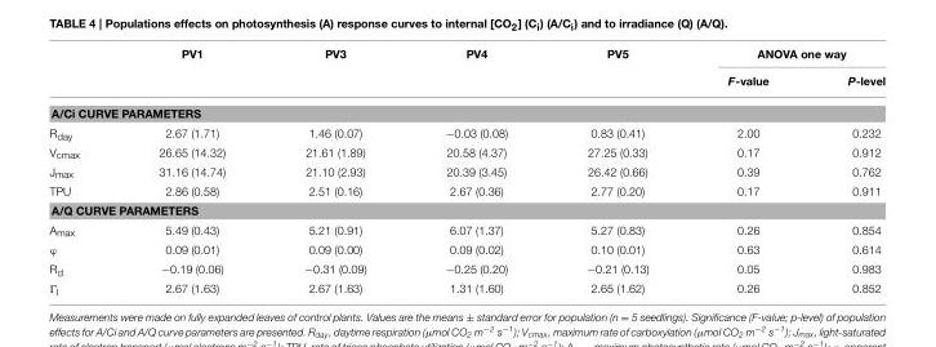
<table><thead><tr><td rowspan="2"></td><td rowspan="2">PV1</td><td rowspan="2">PV3</td><td rowspan="2">PV4</td><td rowspan="2">PV5</td><td colspan="2">ANOVA one way</td></tr><tr><td>F-value</td><td>P-level</td></tr></thead><tbody><tr><td colspan="7">A/Ci CURVE PARAMETERS</td></tr><tr><td>R<sub>day</sub></td><td>2.67 (1.71)</td><td>1.46 (0.07)</td><td>−0.03 (0.08)</td><td>0.83 (0.41)</td><td>2.00</td><td>0.232</td></tr><tr><td>V<sub>cmax</sub></td><td>26.65 (14.32)</td><td>21.61 (1.89)</td><td>20.58 (4.37)</td><td>27.25 (0.33)</td><td>0.17</td><td>0.912</td></tr><tr><td>J<sub>max</sub></td><td>31.16 (14.74)</td><td>21.10 (2.93)</td><td>20.39 (3.45)</td><td>26.42 (0.66)</td><td>0.39</td><td>0.762</td></tr><tr><td>TPU</td><td>2.86 (0.58)</td><td>2.51 (0.16)</td><td>2.67 (0.36)</td><td>2.77 (0.20)</td><td>0.17</td><td>0.911</td></tr><tr><td colspan="7">A/Q CURVE PARAMETERS</td></tr><tr><td>A<sub>max</sub></td><td>5.49 (0.43)</td><td>5.21 (0.91)</td><td>6.07 (1.37)</td><td>5.27 (0.83)</td><td>0.26</td><td>0.854</td></tr><tr><td>ϕ</td><td>0.09 (0.01)</td><td>0.09 (0.00)</td><td>0.09 (0.02)</td><td>0.10 (0.01)</td><td>0.63</td><td>0.614</td></tr><tr><td>R<sub>d</sub></td><td>−0.19 (0.06)</td><td>−0.31 (0.09)</td><td>−0.25 (0.20)</td><td>−0.21 (0.13)</td><td>0.05</td><td>0.983</td></tr><tr><td>Ŵl</td><td>2.67 (1.63)</td><td>2.67 (1.63)</td><td>1.31 (1.60)</td><td>2.65 (1.62)</td><td>0.26</td><td>0.852</td></tr></tbody></table>